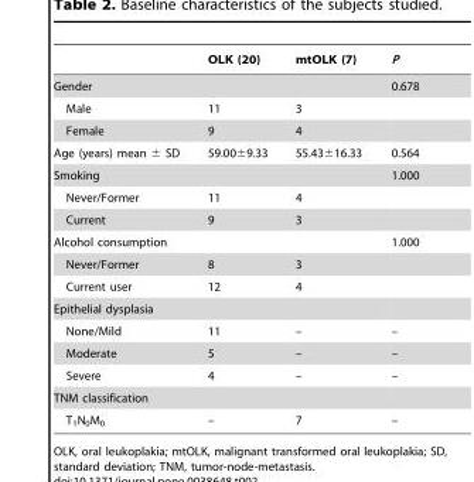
<table><thead><tr><td></td><td>OLK (20)</td><td>mtOLK (7)</td><td>P</td></tr></thead><tbody><tr><td>Gender</td><td></td><td></td><td>0.678</td></tr><tr><td>Male</td><td>11</td><td>3</td><td></td></tr><tr><td>Female</td><td>9</td><td>4</td><td></td></tr><tr><td>Age (years) mean ± SD</td><td>59.00±9.33</td><td>55.43±16.33</td><td>0.564</td></tr><tr><td>Smoking</td><td></td><td></td><td>1.000</td></tr><tr><td>Never/Former</td><td>11</td><td>4</td><td></td></tr><tr><td>Current</td><td>9</td><td>3</td><td></td></tr><tr><td>Alcohol consumption</td><td></td><td></td><td>1.000</td></tr><tr><td>Never/Former</td><td>8</td><td>3</td><td></td></tr><tr><td>Current user</td><td>12</td><td>4</td><td></td></tr><tr><td colspan="4">Epithelial dysplasia</td></tr><tr><td>None/Mild</td><td>11</td><td>–</td><td>–</td></tr><tr><td>Moderate</td><td>5</td><td>–</td><td>–</td></tr><tr><td>Severe</td><td>4</td><td>–</td><td>–</td></tr><tr><td colspan="4">TNM classification</td></tr><tr><td>T<sub>1</sub>N<sub>0</sub>M<sub>0</sub></td><td>–</td><td>7</td><td>–</td></tr></tbody></table>